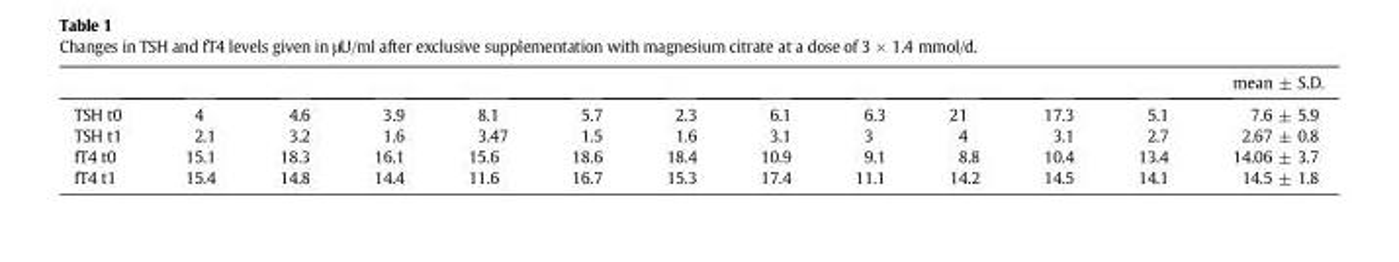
<table><thead><tr><td></td><td></td><td></td><td></td><td></td><td></td><td></td><td></td><td></td><td></td><td></td><td></td><td>mean ± S.D.</td></tr></thead><tbody><tr><td>TSH t0</td><td>4</td><td>4.6</td><td>3.9</td><td>8.1</td><td>5.7</td><td>2.3</td><td>6.1</td><td>6.3</td><td>21</td><td>17.3</td><td>5.1</td><td>7.6 ± 5.9</td></tr><tr><td>TSH t1</td><td>2.1</td><td>3.2</td><td>1.6</td><td>3.47</td><td>1.5</td><td>1.6</td><td>3.1</td><td>3</td><td>4</td><td>3.1</td><td>2.7</td><td>2.67 ± 0.8</td></tr><tr><td>fT4 t0</td><td>15.1</td><td>18.3</td><td>16.1</td><td>15.6</td><td>18.6</td><td>18.4</td><td>10.9</td><td>9.1</td><td>8.8</td><td>10.4</td><td>13.4</td><td>14.06 ± 3.7</td></tr><tr><td>fT4 t1</td><td>15.4</td><td>14.8</td><td>14.4</td><td>11.6</td><td>16.7</td><td>15.3</td><td>17.4</td><td>11.1</td><td>14.2</td><td>14.5</td><td>14.1</td><td>14.5 ± 1.8</td></tr></tbody></table>